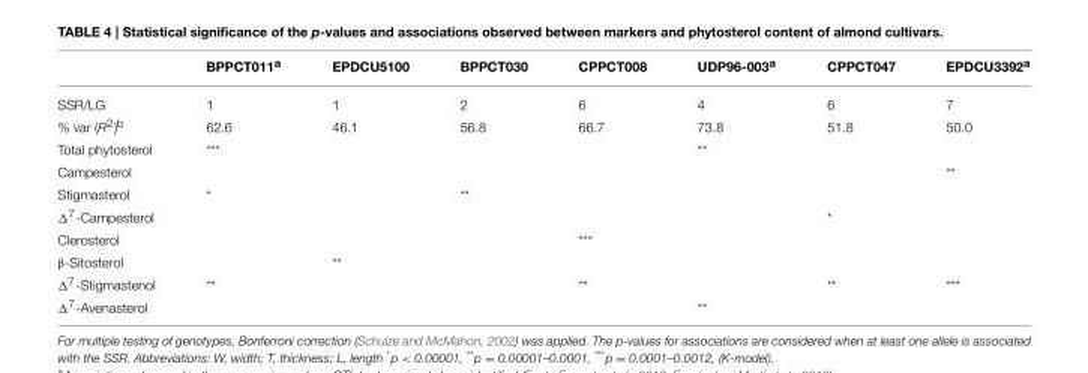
<table><thead><tr><td></td><td>BPPCT011<sup>a</sup></td><td>EPDCU5100</td><td>BPPCT030</td><td>CPPCT008</td><td>UDP96-003<sup>a</sup></td><td>CPPCT047</td><td>EPDCU3392<sup>a</sup></td></tr></thead><tbody><tr><td>SSR/LG</td><td>1</td><td>1</td><td>2</td><td>6</td><td>4</td><td>6</td><td>7</td></tr><tr><td>% var (R<sup>2</sup>)<sup>b</sup></td><td>62.6</td><td>46.1</td><td>56.8</td><td>66.7</td><td>73.8</td><td>51.8</td><td>50.0</td></tr><tr><td>Total phytosterol</td><td>***</td><td></td><td></td><td></td><td>**</td><td></td><td></td></tr><tr><td>Campesterol</td><td></td><td></td><td></td><td></td><td></td><td></td><td>**</td></tr><tr><td>Stigmasterol</td><td>*</td><td></td><td>**</td><td></td><td></td><td></td><td></td></tr><tr><td>Δ<sup>7</sup>-Campesterol</td><td></td><td></td><td></td><td></td><td></td><td>*</td><td></td></tr><tr><td>Clerosterol</td><td></td><td></td><td></td><td>***</td><td></td><td></td><td></td></tr><tr><td>β-Sitosterol</td><td></td><td>**</td><td></td><td></td><td></td><td></td><td></td></tr><tr><td>Δ<sup>7</sup>-Stigmastenol</td><td>**</td><td></td><td></td><td>**</td><td></td><td>**</td><td>***</td></tr><tr><td>Δ<sup>7</sup>-Avenasterol</td><td></td><td></td><td></td><td></td><td>**</td><td></td><td></td></tr></tbody></table>